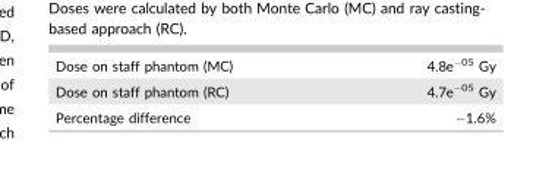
<table><tbody><tr><td>Dose on staff phantom (MC)</td><td>4.8e<sup>−05</sup> Gy</td></tr><tr><td>Dose on staff phantom (RC)</td><td>4.7e<sup>−05</sup> Gy</td></tr><tr><td>Percentage difference</td><td>−1.6%</td></tr></tbody></table>